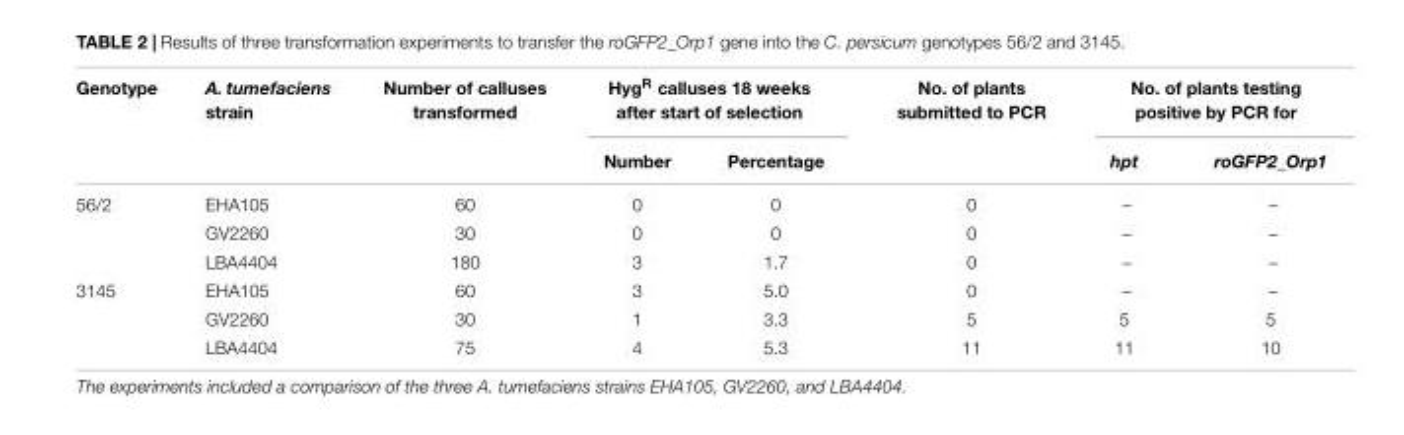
<table><thead><tr><td rowspan="2">Genotype</td><td rowspan="2">A. tumefaciens strain</td><td rowspan="2">Number of calluses transformed</td><td colspan="2">Hyg<sup>R</sup> calluses 18 weeks after start of selection</td><td rowspan="2">No. of plants submitted to PCR</td><td colspan="2">No. of plants testing positive by PCR for</td></tr><tr><td>Number</td><td>Percentage</td><td>hpt</td><td>roGFP2_Orp1</td></tr></thead><tbody><tr><td rowspan="3">56/2</td><td>EHA105</td><td>60</td><td>0</td><td>0</td><td>0</td><td>–</td><td>–</td></tr><tr><td>GV2260</td><td>30</td><td>0</td><td>0</td><td>0</td><td>–</td><td>–</td></tr><tr><td>LBA4404</td><td>180</td><td>3</td><td>1.7</td><td>0</td><td>–</td><td>–</td></tr><tr><td rowspan="3">3145</td><td>EHA105</td><td>60</td><td>3</td><td>5.0</td><td>0</td><td>–</td><td>–</td></tr><tr><td>GV2260</td><td>30</td><td>1</td><td>3.3</td><td>5</td><td>5</td><td>5</td></tr><tr><td>LBA4404</td><td>75</td><td>4</td><td>5.3</td><td>11</td><td>11</td><td>10</td></tr></tbody></table>